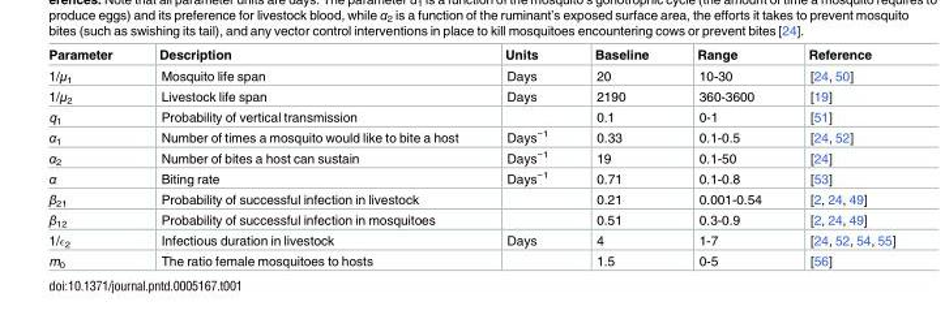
<table><thead><tr><td>Parameter</td><td>Description</td><td>Units</td><td>Baseline</td><td>Range</td><td>Reference</td></tr></thead><tbody><tr><td>1/μ<sub>1</sub></td><td>Mosquito life span</td><td>Days</td><td>20</td><td>10-30</td><td>[24, 50]</td></tr><tr><td>1/μ<sub>2</sub></td><td>Livestock life span</td><td>Days</td><td>2190</td><td>360-3600</td><td>[19]</td></tr><tr><td>q<sub>1</sub></td><td>Probability of vertical transmission</td><td></td><td>0.1</td><td>0-1</td><td>[51]</td></tr><tr><td>α<sub>1</sub></td><td>Number of times a mosquito would like to bite a host</td><td>Days<sup>−1</sup></td><td>0.33</td><td>0.1-0.5</td><td>[24, 52]</td></tr><tr><td>α<sub>2</sub></td><td>Number of bites a host can sustain</td><td>Days<sup>−1</sup></td><td>19</td><td>0.1-50</td><td>[24]</td></tr><tr><td>α</td><td>Biting rate</td><td>Days<sup>−1</sup></td><td>0.71</td><td>0.1-0.8</td><td>[53]</td></tr><tr><td>β<sub>21</sub></td><td>Probability of successful infection in livestock</td><td></td><td>0.21</td><td>0.001-0.54</td><td>[2, 24, 49]</td></tr><tr><td>β<sub>12</sub></td><td>Probability of successful infection in mosquitoes</td><td></td><td>0.51</td><td>0.3-0.9</td><td>[2, 24, 49]</td></tr><tr><td>1/ϵ<sub>2</sub></td><td>Infectious duration in livestock</td><td>Days</td><td>4</td><td>1-7</td><td>[24, 52, 54, 55]</td></tr><tr><td>m<sub>0</sub></td><td>The ratio female mosquitoes to hosts</td><td></td><td>1.5</td><td>0-5</td><td>[56]</td></tr></tbody></table>